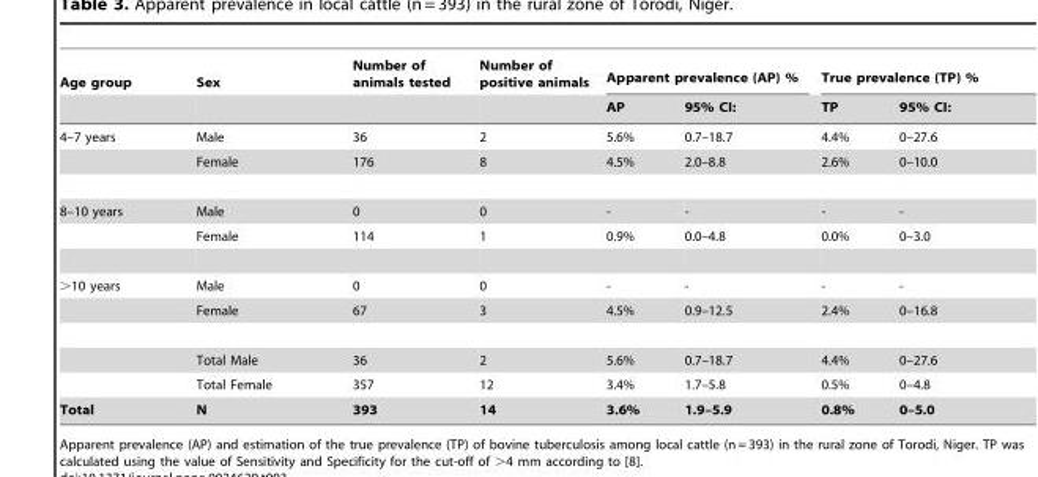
<table><thead><tr><td rowspan="2">Age group</td><td rowspan="2">Sex</td><td rowspan="2">Number of animals tested</td><td rowspan="2">Number of positive animals</td><td colspan="2">Apparent prevalence (AP) %</td><td colspan="2">True prevalence (TP) %</td></tr><tr><td>AP</td><td>95% CI:</td><td>TP</td><td>95% CI:</td></tr></thead><tbody><tr><td rowspan="2">4–7 years</td><td>Male</td><td>36</td><td>2</td><td>5.6%</td><td>0.7–18.7</td><td>4.4%</td><td>0–27.6</td></tr><tr><td>Female</td><td>176</td><td>8</td><td>4.5%</td><td>2.0–8.8</td><td>2.6%</td><td>0–10.0</td></tr><tr><td rowspan="2">8–10 years</td><td>Male</td><td>0</td><td>0</td><td>-</td><td>-</td><td>-</td><td>-</td></tr><tr><td>Female</td><td>114</td><td>1</td><td>0.9%</td><td>0.0–4.8</td><td>0.0%</td><td>0–3.0</td></tr><tr><td rowspan="4">&gt;10 years</td><td>Male</td><td>0</td><td>0</td><td>-</td><td>-</td><td>-</td><td>-</td></tr><tr><td>Female</td><td>67</td><td>3</td><td>4.5%</td><td>0.9–12.5</td><td>2.4%</td><td>0–16.8</td></tr><tr><td>Total Male</td><td>36</td><td>2</td><td>5.6%</td><td>0.7–18.7</td><td>4.4%</td><td>0–27.6</td></tr><tr><td>Total Female</td><td>357</td><td>12</td><td>3.4%</td><td>1.7–5.8</td><td>0.5%</td><td>0–4.8</td></tr><tr><td>Total</td><td>N</td><td>393</td><td>14</td><td>3.6%</td><td>1.9–5.9</td><td>0.8%</td><td>0–5.0</td></tr></tbody></table>